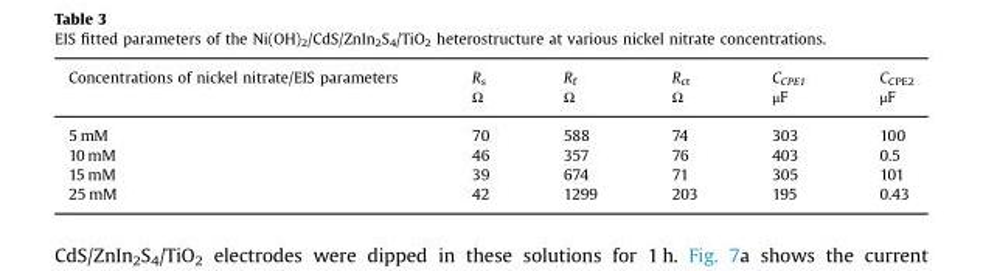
<table><thead><tr><td rowspan="2">Concentrations of nickel nitrate/EIS parameters</td><td rowspan="2">R<sub>s</sub> Ω</td><td rowspan="2">R<sub>f</sub> Ω</td><td rowspan="2">R<sub>ct</sub> Ω</td><td rowspan="2">C<sub>CPE1</sub> μF</td><td rowspan="2">C<sub>CPE2</sub> μF</td></tr><tr></tr></thead><tbody><tr><td>5 mM</td><td>70</td><td>588</td><td>74</td><td>303</td><td>100</td></tr><tr><td>10 mM</td><td>46</td><td>357</td><td>76</td><td>403</td><td>0.5</td></tr><tr><td>15 mM</td><td>39</td><td>674</td><td>71</td><td>305</td><td>101</td></tr><tr><td>25 mM</td><td>42</td><td>1299</td><td>203</td><td>195</td><td>0.43</td></tr></tbody></table>